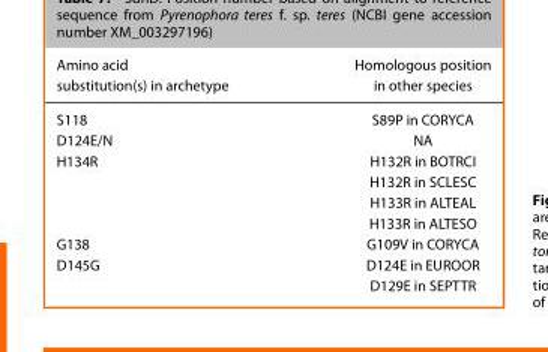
<table><thead><tr><td>Amino acid substitution(s) in archetype</td><td>Homologous position in other species</td></tr></thead><tbody><tr><td>S118</td><td>S89P in CORYCA</td></tr><tr><td>D124E/N</td><td>NA</td></tr><tr><td rowspan="4">H134R</td><td>H132R in BOTRCI</td></tr><tr><td>H132R in SCLESC</td></tr><tr><td>H133R in ALTEAL</td></tr><tr><td>H133R in ALTESO</td></tr><tr><td>G138</td><td>G109V in CORYCA</td></tr><tr><td rowspan="2">D145G</td><td>D124E in EUROOR</td></tr><tr><td>D129E in SEPTTR</td></tr></tbody></table>